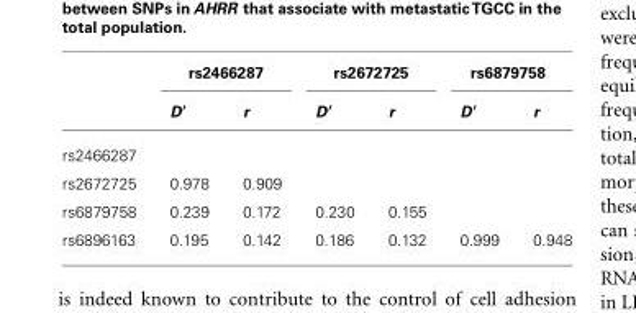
<table><thead><tr><td rowspan="2"></td><td colspan="2">rs2466287</td><td colspan="2">rs2672725</td><td colspan="2">rs6879758</td></tr><tr><td>D′</td><td>r</td><td>D′</td><td>r</td><td>D′</td><td>r</td></tr></thead><tbody><tr><td colspan="7">rs2466287</td></tr><tr><td>rs2672725</td><td>0.978</td><td>0.909</td><td></td><td></td><td></td><td></td></tr><tr><td>rs6879758</td><td>0.239</td><td>0.172</td><td>0.230</td><td>0.155</td><td></td><td></td></tr><tr><td>rs6896163</td><td>0.195</td><td>0.142</td><td>0.186</td><td>0.132</td><td>0.999</td><td>0.948</td></tr></tbody></table>